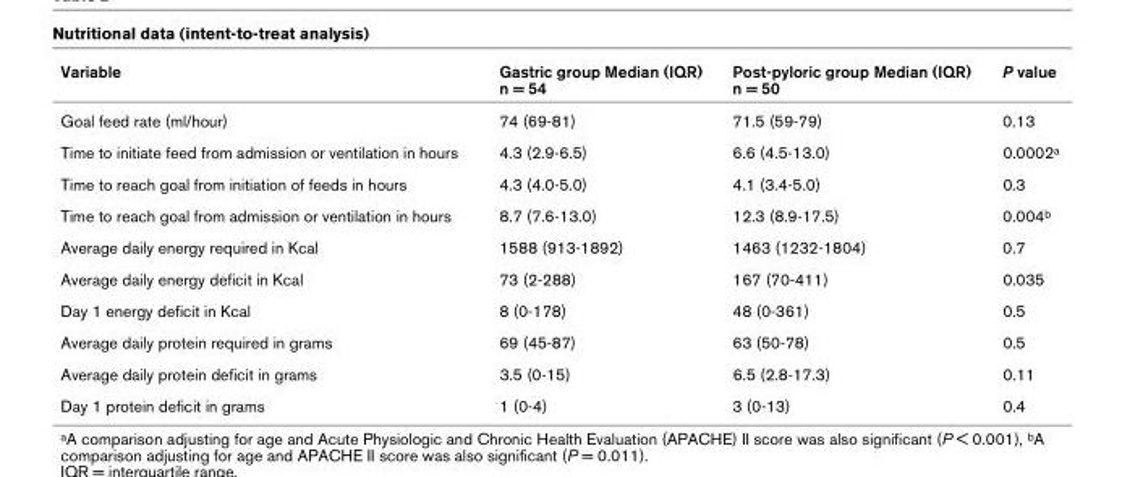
<table><thead><tr><td>Variable</td><td>Gastric group Median (IQR) n = 54</td><td>Post-pyloric group Median (IQR) n = 50</td><td>P value</td></tr></thead><tbody><tr><td>Goal feed rate (ml/hour)</td><td>74 (69-81)</td><td>71.5 (59-79)</td><td>0.13</td></tr><tr><td>Time to initiate feed from admission or ventilation in hours</td><td>4.3 (2.9-6.5)</td><td>6.6 (4.5-13.0)</td><td>0.0002<sup>a</sup></td></tr><tr><td>Time to reach goal from initiation of feeds in hours</td><td>4.3 (4.0-5.0)</td><td>4.1 (3.4-5.0)</td><td>0.3</td></tr><tr><td>Time to reach goal from admission or ventilation in hours</td><td>8.7 (7.6-13.0)</td><td>12.3 (8.9-17.5)</td><td>0.004<sup>b</sup></td></tr><tr><td>Average daily energy required in Kcal</td><td>1588 (913-1892)</td><td>1463 (1232-1804)</td><td>0.7</td></tr><tr><td>Average daily energy deficit in Kcal</td><td>73 (2-288)</td><td>167 (70-411)</td><td>0.035</td></tr><tr><td>Day 1 energy deficit in Kcal</td><td>8 (0-178)</td><td>48 (0-361)</td><td>0.5</td></tr><tr><td>Average daily protein required in grams</td><td>69 (45-87)</td><td>63 (50-78)</td><td>0.5</td></tr><tr><td>Average daily protein deficit in grams</td><td>3.5 (0-15)</td><td>6.5 (2.8-17.3)</td><td>0.11</td></tr><tr><td>Day 1 protein deficit in grams</td><td>1 (0-4)</td><td>3 (0-13)</td><td>0.4</td></tr></tbody></table>